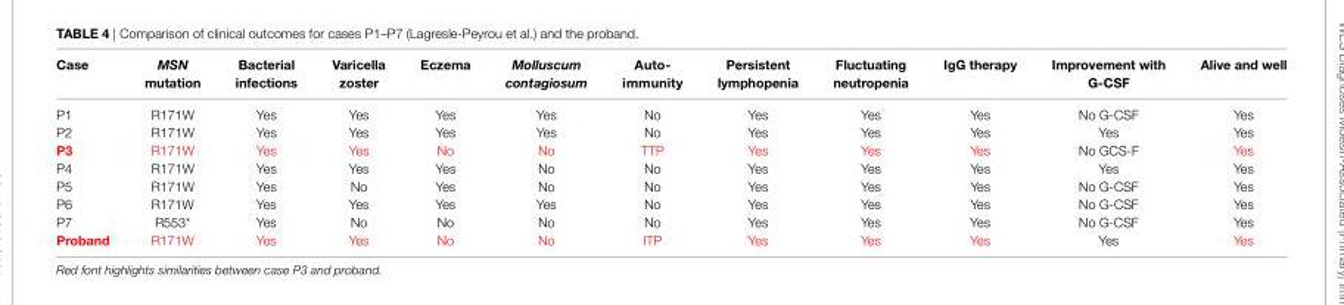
<table><thead><tr><td>Case</td><td>MSN mutation</td><td>Bacterial infections</td><td>Varicella zoster</td><td>eczema</td><td>Molluscum contagiosum</td><td>auto- immunity</td><td>persistent lymphopenia</td><td>Fluctuating neutropenia</td><td>IgG therapy</td><td>Improvement with G-CsF</td><td>alive and well</td></tr></thead><tbody><tr><td>P1</td><td>R171W</td><td>Yes</td><td>Yes</td><td>Yes</td><td>Yes</td><td>No</td><td>Yes</td><td>Yes</td><td>Yes</td><td>No G-CSF</td><td>Yes</td></tr><tr><td>P2</td><td>R171W</td><td>Yes</td><td>Yes</td><td>Yes</td><td>Yes</td><td>No</td><td>Yes</td><td>Yes</td><td>Yes</td><td>Yes</td><td>Yes</td></tr><tr><td>p3</td><td>R171W</td><td>Yes</td><td>Yes</td><td>No</td><td>No</td><td>TTP</td><td>Yes</td><td>Yes</td><td>Yes</td><td>No GCS-F</td><td>Yes</td></tr><tr><td>P4</td><td>R171W</td><td>Yes</td><td>Yes</td><td>Yes</td><td>No</td><td>No</td><td>Yes</td><td>Yes</td><td>Yes</td><td>Yes</td><td>Yes</td></tr><tr><td>P5</td><td>R171W</td><td>Yes</td><td>No</td><td>Yes</td><td>No</td><td>No</td><td>Yes</td><td>Yes</td><td>Yes</td><td>No G-CSF</td><td>Yes</td></tr><tr><td>P6</td><td>R171W</td><td>Yes</td><td>Yes</td><td>Yes</td><td>Yes</td><td>No</td><td>Yes</td><td>Yes</td><td>Yes</td><td>No G-CSF</td><td>Yes</td></tr><tr><td>P7</td><td>R553*</td><td>Yes</td><td>No</td><td>No</td><td>No</td><td>No</td><td>Yes</td><td>Yes</td><td>Yes</td><td>No G-CSF</td><td>Yes</td></tr><tr><td>proband</td><td>R171W</td><td>Yes</td><td>Yes</td><td>No</td><td>No</td><td>ITP</td><td>Yes</td><td>Yes</td><td>Yes</td><td>Yes</td><td>Yes</td></tr></tbody></table>